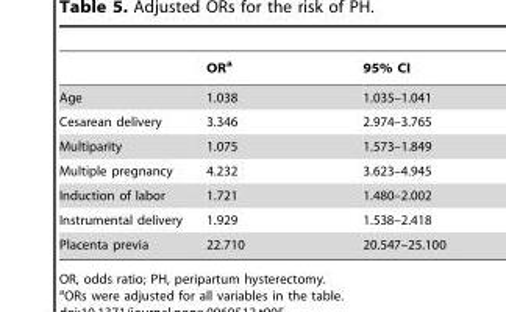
<table><thead><tr><td></td><td>OR<sup>a</sup></td><td>95% CI</td></tr></thead><tbody><tr><td>Age</td><td>1.038</td><td>1.035–1.041</td></tr><tr><td>Cesarean delivery</td><td>3.346</td><td>2.974–3.765</td></tr><tr><td>Multiparity</td><td>1.075</td><td>1.573–1.849</td></tr><tr><td>Multiple pregnancy</td><td>4.232</td><td>3.623–4.945</td></tr><tr><td>Induction of labor</td><td>1.721</td><td>1.480–2.002</td></tr><tr><td>Instrumental delivery</td><td>1.929</td><td>1.538–2.418</td></tr><tr><td>Placenta previa</td><td>22.710</td><td>20.547–25.100</td></tr></tbody></table>